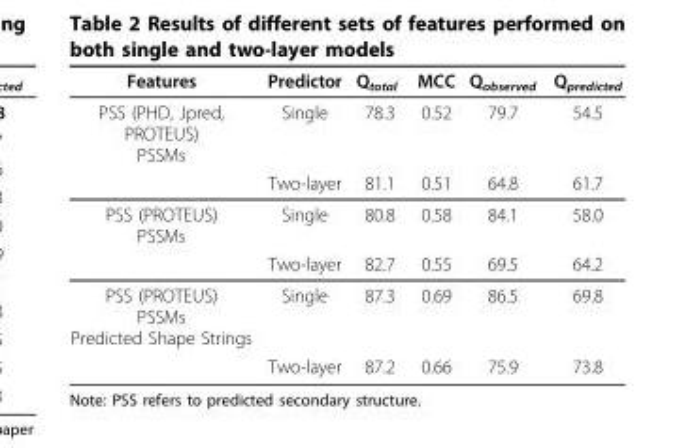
<table><thead><tr><td>Features</td><td>Predictor</td><td>Q<sub>total</sub></td><td>MCC</td><td>Q<sub>observed</sub></td><td>Q<sub>predicted</sub></td></tr></thead><tbody><tr><td rowspan="2">PSS (PHD, Jpred, PROTEUS) PSSMs</td><td>Single</td><td>78.3</td><td>0.52</td><td>79.7</td><td>54.5</td></tr><tr><td>Two-layer</td><td>81.1</td><td>0.51</td><td>64.8</td><td>61.7</td></tr><tr><td rowspan="2">PSS (PROTEUS) PSSMs</td><td>Single</td><td>80.8</td><td>0.58</td><td>84.1</td><td>58.0</td></tr><tr><td>Two-layer</td><td>82.7</td><td>0.55</td><td>69.5</td><td>64.2</td></tr><tr><td rowspan="2">PSS (PROTEUS) PSSMs Predicted Shape Strings</td><td>Single</td><td>87.3</td><td>0.69</td><td>86.5</td><td>69.8</td></tr><tr><td>Two-layer</td><td>87.2</td><td>0.66</td><td>75.9</td><td>73.8</td></tr></tbody></table>